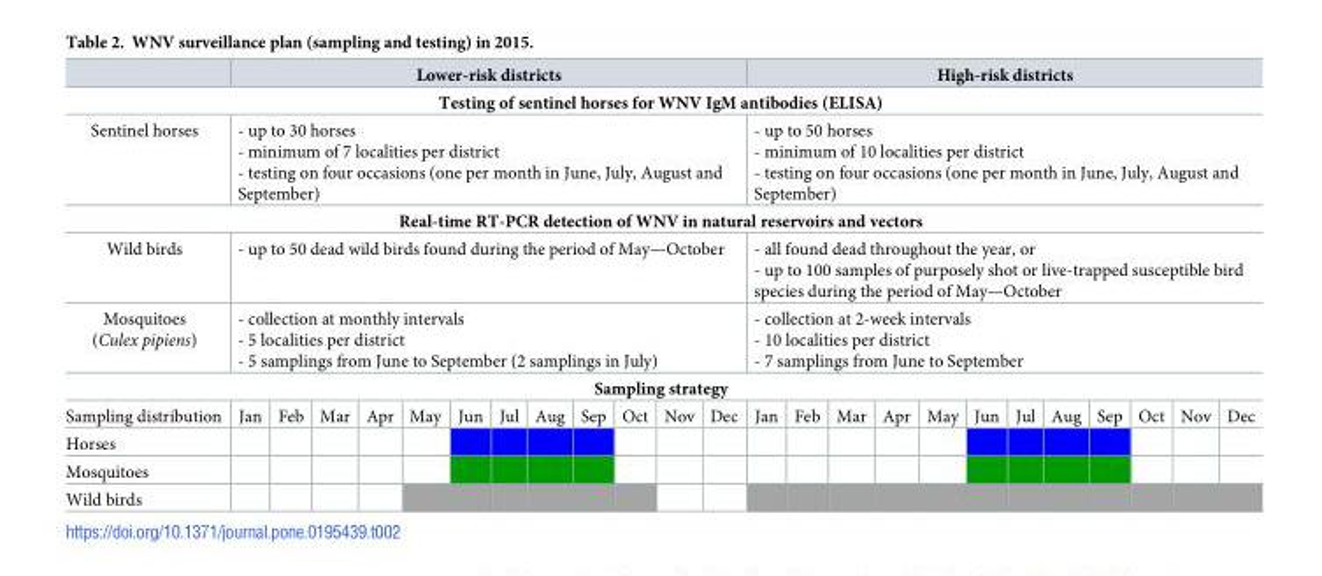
<table><thead><tr><td></td><td colspan="12">Lower-risk districts</td><td colspan="12">High-risk districts</td></tr></thead><tbody><tr><td colspan="25">Testing of sentinel horses for WNV IgM antibodies (ELISA)</td></tr><tr><td>Sentinel horses</td><td colspan="12">- up to 30 horses - minimum of 7 localities per district - testing on four occasions (one per month in June, July, August and September)</td><td colspan="12">- up to 50 horses - minimum of 10 localities per district - testing on four occasions (one per month in June, July, August and September)</td></tr><tr><td colspan="25">Real-time RT-PCR detection of WNV in natural reservoirs and vectors</td></tr><tr><td>Wild birds</td><td colspan="12">- up to 50 dead wild birds found during the period of May—October</td><td colspan="12">- all found dead throughout the year, or - up to 100 samples of purposely shot or live-trapped susceptible bird species during the period of May—October</td></tr><tr><td>Mosquitoes (Culex pipiens)</td><td colspan="12">- collection at monthly intervals - 5 localities per district - 5 samplings from June to September (2 samplings in July)</td><td colspan="12">- collection at 2-week intervals - 10 localities per district - 7 samplings from June to September</td></tr><tr><td colspan="25">Sampling strategy</td></tr><tr><td>Sampling distribution</td><td>Jan</td><td>Feb</td><td>Mar</td><td>Apr</td><td>May</td><td>Jun</td><td>Jul</td><td>Aug</td><td>Sep</td><td>Oct</td><td>Nov</td><td>Dec</td><td>Jan</td><td>Feb</td><td>Mar</td><td>Apr</td><td>May</td><td>Jun</td><td>Jul</td><td>Aug</td><td>Sep</td><td>Oct</td><td>Nov</td><td>Dec</td></tr><tr><td colspan="25">Horses</td></tr><tr><td colspan="25">Mosquitoes</td></tr><tr><td>Wild birds</td><td></td><td></td><td></td><td></td><td></td><td></td><td></td><td></td><td></td><td></td><td></td><td></td><td></td><td></td><td></td><td></td><td></td><td></td><td></td><td></td><td></td><td></td><td></td><td></td></tr></tbody></table>